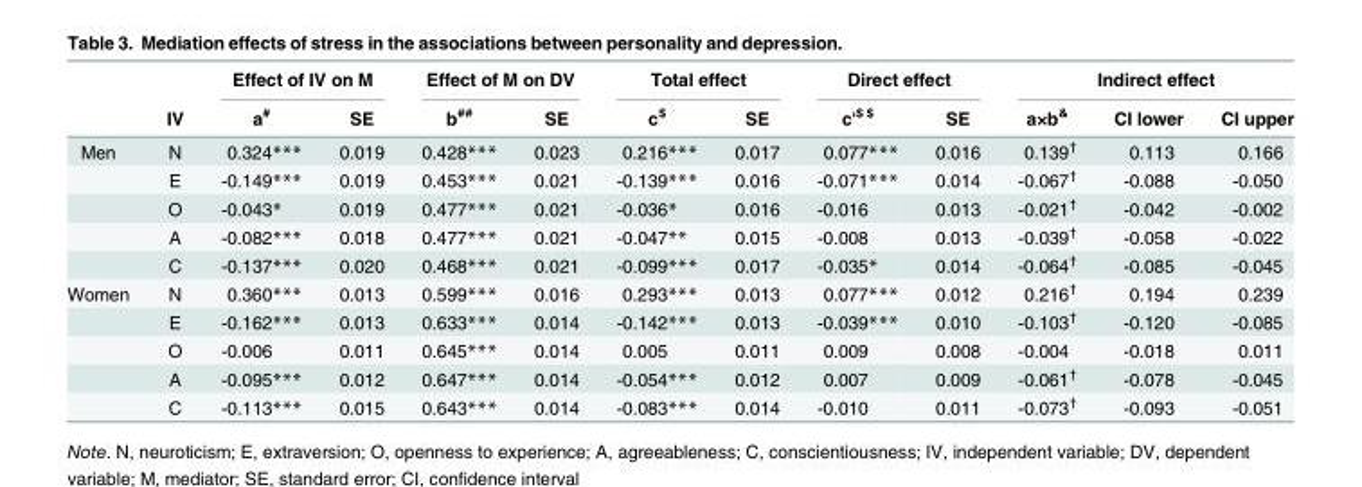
<table><thead><tr><td rowspan="2"></td><td rowspan="2">IV</td><td colspan="2">Effect of IV on M</td><td colspan="2">Effect of M on DV</td><td colspan="2">Total effect</td><td colspan="2">Direct effect</td><td colspan="3">Indirect effect</td></tr><tr><td>a<sup>#</sup></td><td>SE</td><td>b<sup>##</sup></td><td>SE</td><td>c<sup>$</sup></td><td>SE</td><td>c&#x27;<sup>$ $</sup></td><td>SE</td><td>a×b<sup>&amp;</sup></td><td>CI lower</td><td>CI upper</td></tr></thead><tbody><tr><td rowspan="5">Men</td><td>N</td><td>0.324***</td><td>0.019</td><td>0.428***</td><td>0.023</td><td>0.216***</td><td>0.017</td><td>0.077***</td><td>0.016</td><td>0.139<sup>†</sup></td><td>0.113</td><td>0.166</td></tr><tr><td>E</td><td>-0.149***</td><td>0.019</td><td>0.453***</td><td>0.021</td><td>-0.139***</td><td>0.016</td><td>-0.071***</td><td>0.014</td><td>-0.067<sup>†</sup></td><td>-0.088</td><td>-0.050</td></tr><tr><td>O</td><td>-0.043*</td><td>0.019</td><td>0.477***</td><td>0.021</td><td>-0.036*</td><td>0.016</td><td>-0.016</td><td>0.013</td><td>-0.021<sup>†</sup></td><td>-0.042</td><td>-0.002</td></tr><tr><td>A</td><td>-0.082***</td><td>0.018</td><td>0.477***</td><td>0.021</td><td>-0.047**</td><td>0.015</td><td>-0.008</td><td>0.013</td><td>-0.039<sup>†</sup></td><td>-0.058</td><td>-0.022</td></tr><tr><td>C</td><td>-0.137***</td><td>0.020</td><td>0.468***</td><td>0.021</td><td>-0.099***</td><td>0.017</td><td>-0.035*</td><td>0.014</td><td>-0.064<sup>†</sup></td><td>-0.085</td><td>-0.045</td></tr><tr><td rowspan="5">Women</td><td>N</td><td>0.360***</td><td>0.013</td><td>0.599***</td><td>0.016</td><td>0.293***</td><td>0.013</td><td>0.077***</td><td>0.012</td><td>0.216<sup>†</sup></td><td>0.194</td><td>0.239</td></tr><tr><td>E</td><td>-0.162***</td><td>0.013</td><td>0.633***</td><td>0.014</td><td>-0.142***</td><td>0.013</td><td>-0.039***</td><td>0.010</td><td>-0.103<sup>†</sup></td><td>-0.120</td><td>-0.085</td></tr><tr><td>O</td><td>-0.006</td><td>0.011</td><td>0.645***</td><td>0.014</td><td>0.005</td><td>0.011</td><td>0.009</td><td>0.008</td><td>-0.004</td><td>-0.018</td><td>0.011</td></tr><tr><td>A</td><td>-0.095***</td><td>0.012</td><td>0.647***</td><td>0.014</td><td>-0.054***</td><td>0.012</td><td>0.007</td><td>0.009</td><td>-0.061<sup>†</sup></td><td>-0.078</td><td>-0.045</td></tr><tr><td>C</td><td>-0.113***</td><td>0.015</td><td>0.643***</td><td>0.014</td><td>-0.083***</td><td>0.014</td><td>-0.010</td><td>0.011</td><td>-0.073<sup>†</sup></td><td>-0.093</td><td>-0.051</td></tr></tbody></table>